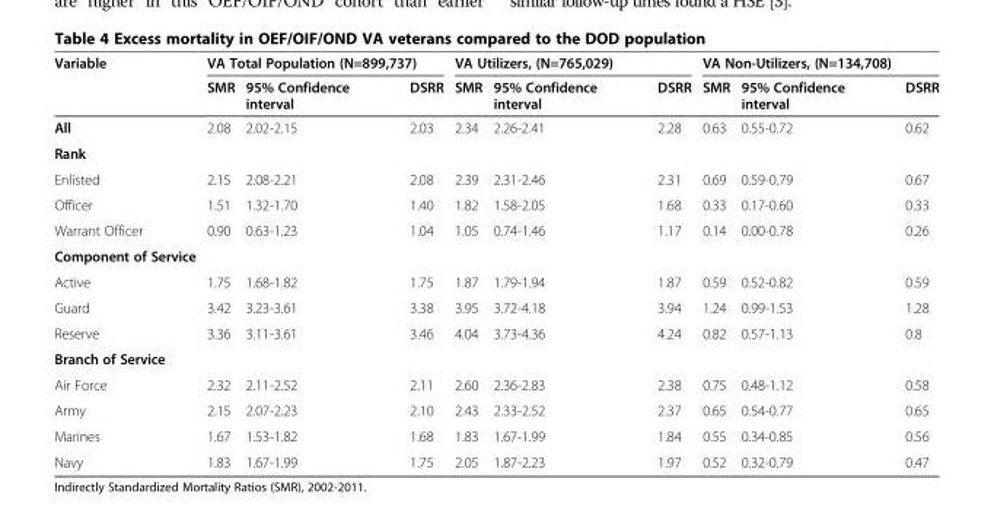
<table><thead><tr><td rowspan="2">Variable</td><td colspan="3">VA Total Population (N=899,737)</td><td colspan="3">VA Utilizers, (N=765,029)</td><td colspan="3">VA Non-Utilizers, (N=134,708)</td></tr><tr><td>SMR</td><td>95% Confidence interval</td><td>DSRR</td><td>SMR</td><td>95% Confidence interval</td><td>DSRR</td><td>SMR</td><td>95% Confidence interval</td><td>DSRR</td></tr></thead><tbody><tr><td>All</td><td>2.08</td><td>2.02-2.15</td><td>2.03</td><td>2.34</td><td>2.26-2.41</td><td>2.28</td><td>0.63</td><td>0.55-0.72</td><td>0.62</td></tr><tr><td colspan="10">Rank</td></tr><tr><td>Enlisted</td><td>2.15</td><td>2.08-2.21</td><td>2.08</td><td>2.39</td><td>2.31-2.46</td><td>2.31</td><td>0.69</td><td>0.59-0.79</td><td>0.67</td></tr><tr><td>Officer</td><td>1.51</td><td>1.32-1.70</td><td>1.40</td><td>1.82</td><td>1.58-2.05</td><td>1.68</td><td>0.33</td><td>0.17-0.60</td><td>0.33</td></tr><tr><td>Warrant Officer</td><td>0.90</td><td>0.63-1.23</td><td>1.04</td><td>1.05</td><td>0.74-1.46</td><td>1.17</td><td>0.14</td><td>0.00-0.78</td><td>0.26</td></tr><tr><td colspan="10">Component of Service</td></tr><tr><td>Active</td><td>1.75</td><td>1.68-1.82</td><td>1.75</td><td>1.87</td><td>1.79-1.94</td><td>1.87</td><td>0.59</td><td>0.52-0.82</td><td>0.59</td></tr><tr><td>Guard</td><td>3.42</td><td>3.23-3.61</td><td>3.38</td><td>3.95</td><td>3.72-4.18</td><td>3.94</td><td>1.24</td><td>0.99-1.53</td><td>1.28</td></tr><tr><td>Reserve</td><td>3.36</td><td>3.11-3.61</td><td>3.46</td><td>4.04</td><td>3.73-4.36</td><td>4.24</td><td>0.82</td><td>0.57-1.13</td><td>0.8</td></tr><tr><td colspan="10">Branch of Service</td></tr><tr><td>Air Force</td><td>2.32</td><td>2.11-2.52</td><td>2.11</td><td>2.60</td><td>2.36-2.83</td><td>2.38</td><td>0.75</td><td>0.48-1.12</td><td>0.58</td></tr><tr><td>Army</td><td>2.15</td><td>2.07-2.23</td><td>2.10</td><td>2.43</td><td>2.33-2.52</td><td>2.37</td><td>0.65</td><td>0.54-0.77</td><td>0.65</td></tr><tr><td>Marines</td><td>1.67</td><td>1.53-1.82</td><td>1.68</td><td>1.83</td><td>1.67-1.99</td><td>1.84</td><td>0.55</td><td>0.34-0.85</td><td>0.56</td></tr><tr><td>Navy</td><td>1.83</td><td>1.67-1.99</td><td>1.75</td><td>2.05</td><td>1.87-2.23</td><td>1.97</td><td>0.52</td><td>0.32-0.79</td><td>0.47</td></tr></tbody></table>